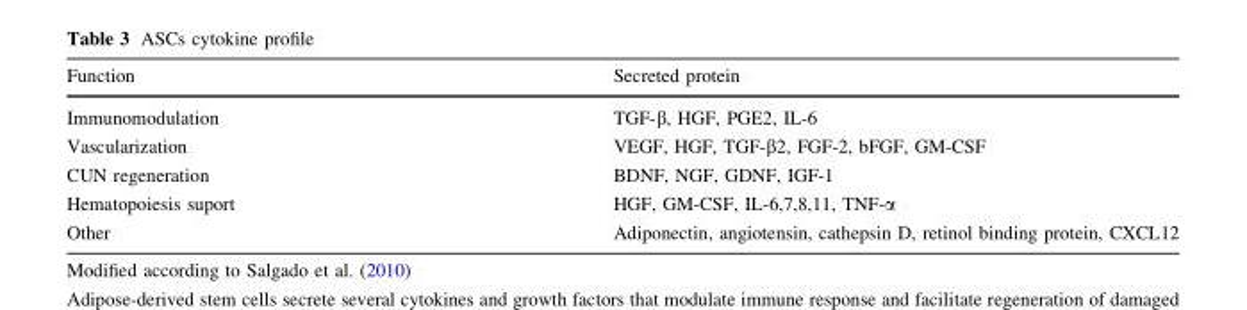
<table><thead><tr><td>Function</td><td>Secreted protein</td></tr></thead><tbody><tr><td>Immunomodulation</td><td>TGF-β, HGF, PGE2, IL-6</td></tr><tr><td>Vascularization</td><td>VEGF, HGF, TGF-β2, FGF-2, bFGF, GM-CSF</td></tr><tr><td>CUN regeneration</td><td>BDNF, NGF, GDNF, IGF-1</td></tr><tr><td>Hematopoiesis suport</td><td>HGF, GM-CSF, IL-6,7,8,11, TNF-α</td></tr><tr><td>Other</td><td>Adiponectin, angiotensin, cathepsin D, retinol binding protein, CXCL12</td></tr></tbody></table>